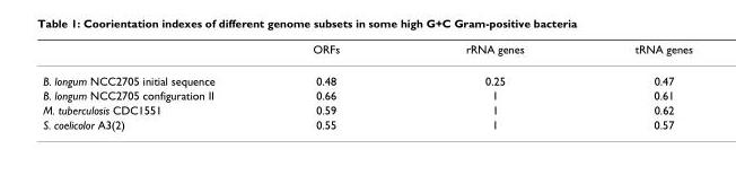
<table><thead><tr><td></td><td>ORFs</td><td>rRNA genes</td><td>tRNA genes</td></tr></thead><tbody><tr><td>B. longum NCC2705 initial sequence</td><td>0.48</td><td>0.25</td><td>0.47</td></tr><tr><td>B. longum NCC2705 configuration II</td><td>0.66</td><td>1</td><td>0.61</td></tr><tr><td>M. tuberculosis CDC1551</td><td>0.59</td><td>1</td><td>0.62</td></tr><tr><td>S. coelicolor A3(2)</td><td>0.55</td><td>1</td><td>0.57</td></tr></tbody></table>